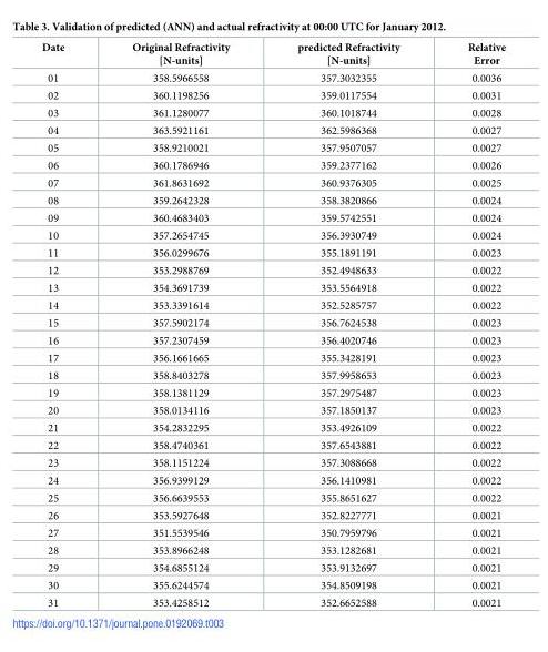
<table><thead><tr><td>Date</td><td>Original Refractivity [N-units]</td><td>predicted Refractivity [N-units]</td><td>Relative Error</td></tr></thead><tbody><tr><td>01</td><td>358.5966558</td><td>357.3032355</td><td>0.0036</td></tr><tr><td>02</td><td>360.1198256</td><td>359.0117554</td><td>0.0031</td></tr><tr><td>03</td><td>361.1280077</td><td>360.1018744</td><td>0.0028</td></tr><tr><td>04</td><td>363.5921161</td><td>362.5986368</td><td>0.0027</td></tr><tr><td>05</td><td>358.9210021</td><td>357.9507057</td><td>0.0027</td></tr><tr><td>06</td><td>360.1786946</td><td>359.2377162</td><td>0.0026</td></tr><tr><td>07</td><td>361.8631692</td><td>360.9376305</td><td>0.0025</td></tr><tr><td>08</td><td>359.2642328</td><td>358.3820866</td><td>0.0024</td></tr><tr><td>09</td><td>360.4683403</td><td>359.5742551</td><td>0.0024</td></tr><tr><td>10</td><td>357.2654745</td><td>356.3930749</td><td>0.0024</td></tr><tr><td>11</td><td>356.0299676</td><td>355.1891191</td><td>0.0023</td></tr><tr><td>12</td><td>353.2988769</td><td>352.4948633</td><td>0.0022</td></tr><tr><td>13</td><td>354.3691739</td><td>353.5564918</td><td>0.0022</td></tr><tr><td>14</td><td>353.3391614</td><td>352.5285757</td><td>0.0022</td></tr><tr><td>15</td><td>357.5902174</td><td>356.7624538</td><td>0.0023</td></tr><tr><td>16</td><td>357.2307459</td><td>356.4020746</td><td>0.0023</td></tr><tr><td>17</td><td>356.1661665</td><td>355.3428191</td><td>0.0023</td></tr><tr><td>18</td><td>358.8403278</td><td>357.9958653</td><td>0.0023</td></tr><tr><td>19</td><td>358.1381129</td><td>357.2975487</td><td>0.0023</td></tr><tr><td>20</td><td>358.0134116</td><td>357.1850137</td><td>0.0023</td></tr><tr><td>21</td><td>354.2832295</td><td>353.4926109</td><td>0.0022</td></tr><tr><td>22</td><td>358.4740361</td><td>357.6543881</td><td>0.0022</td></tr><tr><td>23</td><td>358.1151224</td><td>357.3088668</td><td>0.0022</td></tr><tr><td>24</td><td>356.9399129</td><td>356.1410981</td><td>0.0022</td></tr><tr><td>25</td><td>356.6639553</td><td>355.8651627</td><td>0.0022</td></tr><tr><td>26</td><td>353.5927648</td><td>352.8227771</td><td>0.0021</td></tr><tr><td>27</td><td>351.5539546</td><td>350.7959796</td><td>0.0021</td></tr><tr><td>28</td><td>353.8966248</td><td>353.1282681</td><td>0.0021</td></tr><tr><td>29</td><td>354.6855124</td><td>353.9132697</td><td>0.0021</td></tr><tr><td>30</td><td>355.6244574</td><td>354.8509198</td><td>0.0021</td></tr><tr><td>31</td><td>353.4258512</td><td>352.6652588</td><td>0.0021</td></tr></tbody></table>